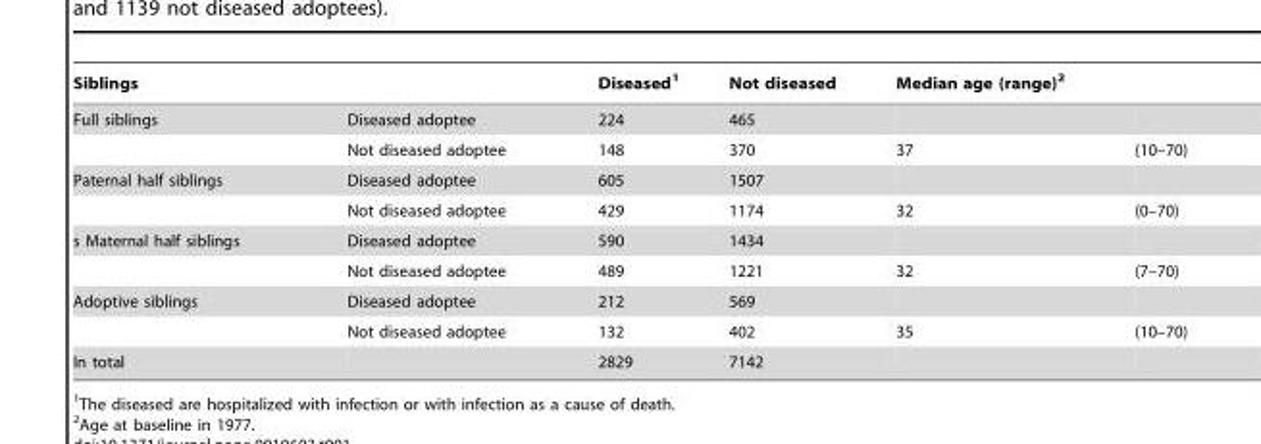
<table><thead><tr><td rowspan="2">Siblings Full siblings</td><td rowspan="2">Diseased adoptee</td><td rowspan="2">Diseased<sup>1</sup> 224</td><td rowspan="2">Not diseased 465</td><td colspan="2">Median age (range)<sup>2</sup></td></tr><tr><td></td><td></td></tr></thead><tbody><tr><td></td><td>Not diseased adoptee</td><td>148</td><td>370</td><td>37</td><td>(10–70)</td></tr><tr><td rowspan="2">Paternal half siblings</td><td>Diseased adoptee</td><td>605</td><td>1507</td><td></td><td></td></tr><tr><td>Not diseased adoptee</td><td>429</td><td>1174</td><td>32</td><td>(0–70)</td></tr><tr><td rowspan="2">s Maternal half siblings</td><td>Diseased adoptee</td><td>590</td><td>1434</td><td></td><td></td></tr><tr><td>Not diseased adoptee</td><td>489</td><td>1221</td><td>32</td><td>(7–70)</td></tr><tr><td rowspan="2">Adoptive siblings</td><td>Diseased adoptee</td><td>212</td><td>569</td><td></td><td></td></tr><tr><td>Not diseased adoptee</td><td>132</td><td>402</td><td>35</td><td>(10–70)</td></tr><tr><td>In total</td><td></td><td>2829</td><td>7142</td><td></td><td></td></tr></tbody></table>